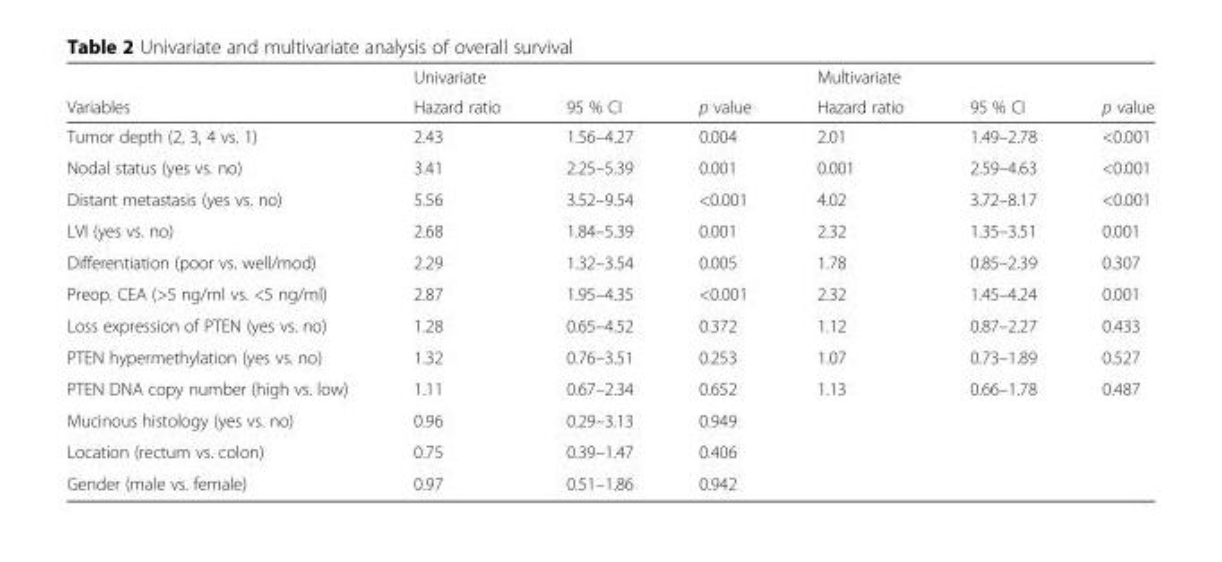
<table><thead><tr><td rowspan="2">Variables</td><td colspan="3">Univariate</td><td colspan="3">Multivariate</td></tr><tr><td>Hazard ratio</td><td>95 % CI</td><td>p value</td><td>Hazard ratio</td><td>95 % CI</td><td>p value</td></tr></thead><tbody><tr><td>Tumor depth (2, 3, 4 vs. 1)</td><td>2.43</td><td>1.56–4.27</td><td>0.004</td><td>2.01</td><td>1.49–2.78</td><td>&lt;0.001</td></tr><tr><td>Nodal status (yes vs. no)</td><td>3.41</td><td>2.25–5.39</td><td>0.001</td><td>0.001</td><td>2.59–4.63</td><td>&lt;0.001</td></tr><tr><td>Distant metastasis (yes vs. no)</td><td>5.56</td><td>3.52–9.54</td><td>&lt;0.001</td><td>4.02</td><td>3.72–8.17</td><td>&lt;0.001</td></tr><tr><td>LVI (yes vs. no)</td><td>2.68</td><td>1.84–5.39</td><td>0.001</td><td>2.32</td><td>1.35–3.51</td><td>0.001</td></tr><tr><td>Differentiation (poor vs. well/mod)</td><td>2.29</td><td>1.32–3.54</td><td>0.005</td><td>1.78</td><td>0.85–2.39</td><td>0.307</td></tr><tr><td>Preop. CEA (&gt;5 ng/ml vs. &lt;5 ng/ml)</td><td>2.87</td><td>1.95–4.35</td><td>&lt;0.001</td><td>2.32</td><td>1.45–4.24</td><td>0.001</td></tr><tr><td>Loss expression of PTEN (yes vs. no)</td><td>1.28</td><td>0.65–4.52</td><td>0.372</td><td>1.12</td><td>0.87–2.27</td><td>0.433</td></tr><tr><td>PTEN hypermethylation (yes vs. no)</td><td>1.32</td><td>0.76–3.51</td><td>0.253</td><td>1.07</td><td>0.73–1.89</td><td>0.527</td></tr><tr><td>PTEN DNA copy number (high vs. low)</td><td>1.11</td><td>0.67–2.34</td><td>0.652</td><td>1.13</td><td>0.66–1.78</td><td>0.487</td></tr><tr><td>Mucinous histology (yes vs. no)</td><td>0.96</td><td>0.29–3.13</td><td>0.949</td><td></td><td></td><td></td></tr><tr><td>Location (rectum vs. colon)</td><td>0.75</td><td>0.39–1.47</td><td>0.406</td><td></td><td></td><td></td></tr><tr><td>Gender (male vs. female)</td><td>0.97</td><td>0.51–1.86</td><td>0.942</td><td></td><td></td><td></td></tr></tbody></table>